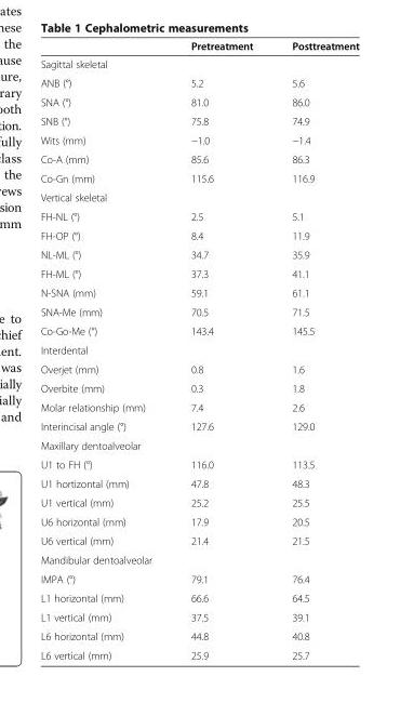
<table><thead><tr><td></td><td>Pretreatment</td><td>Posttreatment</td></tr></thead><tbody><tr><td colspan="3">Sagittal skeletal</td></tr><tr><td>ANB (°)</td><td>5.2</td><td>5.6</td></tr><tr><td>SNA (°)</td><td>81.0</td><td>86.0</td></tr><tr><td>SNB (°)</td><td>75.8</td><td>74.9</td></tr><tr><td>Wits (mm)</td><td>−1.0</td><td>−1.4</td></tr><tr><td>Co-A (mm)</td><td>85.6</td><td>86.3</td></tr><tr><td>Co-Gn (mm)</td><td>115.6</td><td>116.9</td></tr><tr><td colspan="3">Vertical skeletal</td></tr><tr><td>FH-NL (°)</td><td>2.5</td><td>5.1</td></tr><tr><td>FH-OP (°)</td><td>8.4</td><td>11.9</td></tr><tr><td>NL-ML (°)</td><td>34.7</td><td>35.9</td></tr><tr><td>FH-ML (°)</td><td>37.3</td><td>41.1</td></tr><tr><td>N-SNA (mm)</td><td>59.1</td><td>61.1</td></tr><tr><td>SNA-Me (mm)</td><td>70.5</td><td>71.5</td></tr><tr><td>Co-Go-Me (°)</td><td>143.4</td><td>145.5</td></tr><tr><td colspan="3">Interdental</td></tr><tr><td>Overjet (mm)</td><td>0.8</td><td>1.6</td></tr><tr><td>Overbite (mm)</td><td>0.3</td><td>1.8</td></tr><tr><td>Molar relationship (mm)</td><td>7.4</td><td>2.6</td></tr><tr><td>Interincisal angle (°)</td><td>127.6</td><td>129.0</td></tr><tr><td colspan="3">Maxillary dentoalveolar</td></tr><tr><td>U1 to FH (°)</td><td>116.0</td><td>113.5</td></tr><tr><td>U1 hortizontal (mm)</td><td>47.8</td><td>48.3</td></tr><tr><td>U1 vertical (mm)</td><td>25.2</td><td>25.5</td></tr><tr><td>U6 horizontal (mm)</td><td>17.9</td><td>20.5</td></tr><tr><td>U6 vertical (mm)</td><td>21.4</td><td>21.5</td></tr><tr><td colspan="3">Mandibular dentoalveolar</td></tr><tr><td>IMPA (°)</td><td>79.1</td><td>76.4</td></tr><tr><td>L1 horizontal (mm)</td><td>66.6</td><td>64.5</td></tr><tr><td>L1 vertical (mm)</td><td>37.5</td><td>39.1</td></tr><tr><td>L6 horizontal (mm)</td><td>44.8</td><td>40.8</td></tr><tr><td>L6 vertical (mm)</td><td>25.9</td><td>25.7</td></tr></tbody></table>